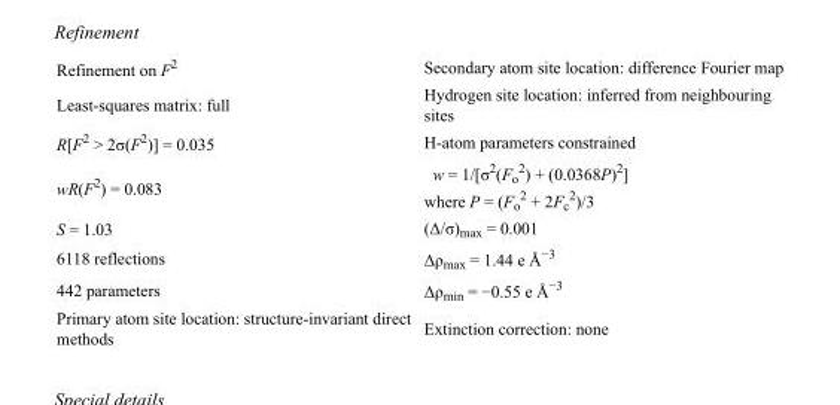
<table><tbody><tr><td>Refinement on F<sup>2</sup></td><td>Secondary atom site location: difference Fourier map</td></tr><tr><td>Least-squares matrix: full</td><td>Hydrogen site location: inferred from neighbouring sites</td></tr><tr><td>R[F<sup>2</sup> &gt; 2σ(F<sup>2</sup>)] = 0.035</td><td>H-atom parameters constrained</td></tr><tr><td>wR(F<sup>2</sup>) = 0.083</td><td>w = 1/[σ<sup>2</sup>(F<sub>o</sub> <sup>2</sup>) + (0.0368P)<sup>2</sup>] where P = (F<sub>o</sub> <sup>2</sup> + 2F<sub>c</sub> <sup>2</sup>)/3</td></tr><tr><td>S = 1.03</td><td>(Δ/σ)<sub>max</sub> = 0.001</td></tr><tr><td>6118 reflections</td><td>Δρ<sub>max</sub> = 1.44 e Å<sup>−3</sup></td></tr><tr><td>442 parameters</td><td>Δρ<sub>min</sub> = −0.55 e Å<sup>−3</sup></td></tr><tr><td>Primary atom site location: structure-invariant direct methods</td><td>Extinction correction: none</td></tr></tbody></table>